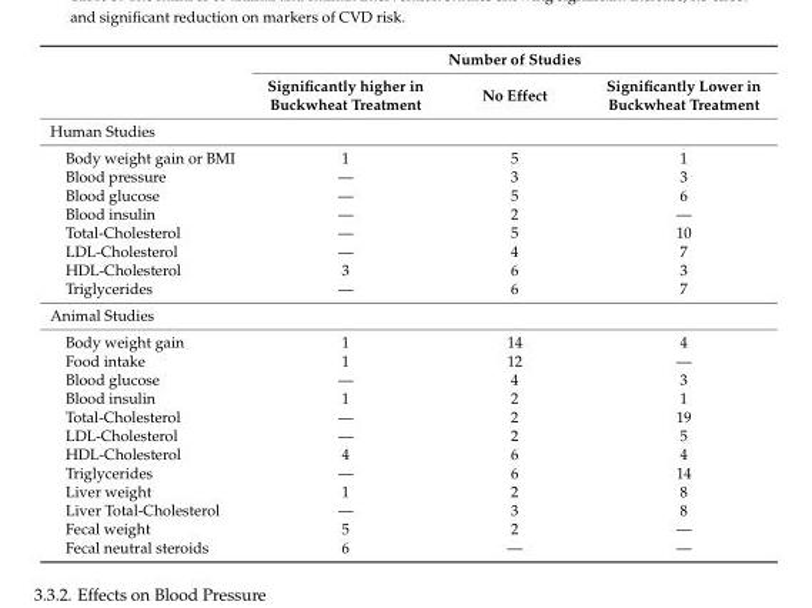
<table><thead><tr><td rowspan="2"></td><td colspan="3">Number of Studies</td></tr><tr><td>Significantly higher in Buckwheat Treatment</td><td>No Effect</td><td>Significantly Lower in Buckwheat Treatment</td></tr></thead><tbody><tr><td colspan="4">Human Studies</td></tr><tr><td>Body weight gain or BMI</td><td>1</td><td>5</td><td>1</td></tr><tr><td>Blood pressure</td><td>—</td><td>3</td><td>3</td></tr><tr><td>Blood glucose</td><td>—</td><td>5</td><td>6</td></tr><tr><td>Blood insulin</td><td>—</td><td>2</td><td>—</td></tr><tr><td>Total-Cholesterol</td><td>—</td><td>5</td><td>10</td></tr><tr><td>LDL-Cholesterol</td><td>—</td><td>4</td><td>7</td></tr><tr><td>HDL-Cholesterol</td><td>3</td><td>6</td><td>3</td></tr><tr><td>Triglycerides</td><td>—</td><td>6</td><td>7</td></tr><tr><td colspan="4">Animal Studies</td></tr><tr><td>Body weight gain</td><td>1</td><td>14</td><td>4</td></tr><tr><td>Food intake</td><td>1</td><td>12</td><td>—</td></tr><tr><td>Blood glucose</td><td>—</td><td>4</td><td>3</td></tr><tr><td>Blood insulin</td><td>1</td><td>2</td><td>1</td></tr><tr><td>Total-Cholesterol</td><td>—</td><td>2</td><td>19</td></tr><tr><td>LDL-Cholesterol</td><td>—</td><td>2</td><td>5</td></tr><tr><td>HDL-Cholesterol</td><td>4</td><td>6</td><td>4</td></tr><tr><td>Triglycerides</td><td>—</td><td>6</td><td>14</td></tr><tr><td>Liver weight</td><td>1</td><td>2</td><td>8</td></tr><tr><td>Liver Total-Cholesterol</td><td>—</td><td>3</td><td>8</td></tr><tr><td>Fecal weight</td><td>5</td><td>2</td><td>—</td></tr><tr><td>Fecal neutral steroids</td><td>6</td><td>—</td><td>—</td></tr></tbody></table>